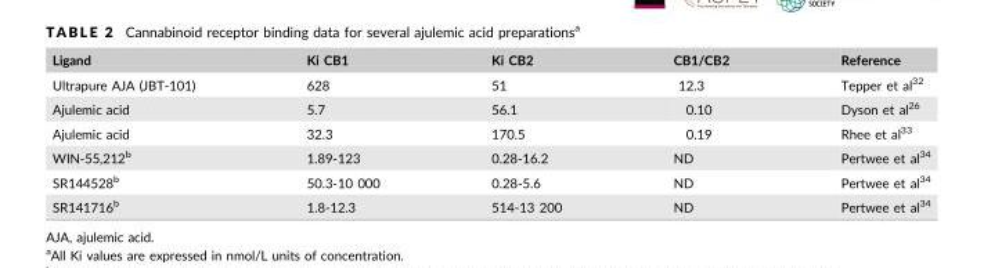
<table><thead><tr><td>Ligand</td><td>Ki CB1</td><td>Ki CB2</td><td>CB1/CB2</td><td>Reference</td></tr></thead><tbody><tr><td>Ultrapure AJA (JBT-101)</td><td>628</td><td>51</td><td>12.3</td><td>Tepper et al<sup>32</sup></td></tr><tr><td>Ajulemic acid</td><td>5.7</td><td>56.1</td><td>0.10</td><td>Dyson et al<sup>26</sup></td></tr><tr><td>Ajulemic acid</td><td>32.3</td><td>170.5</td><td>0.19</td><td>Rhee et al<sup>33</sup></td></tr><tr><td>WIN-55,212<sup>b</sup></td><td>1.89-123</td><td>0.28-16.2</td><td>ND</td><td>Pertwee et al<sup>34</sup></td></tr><tr><td>SR144528<sup>b</sup></td><td>50.3-10 000</td><td>0.28-5.6</td><td>ND</td><td>Pertwee et al<sup>34</sup></td></tr><tr><td>SR141716<sup>b</sup></td><td>1.8-12.3</td><td>514-13 200</td><td>ND</td><td>Pertwee et al<sup>34</sup></td></tr></tbody></table>